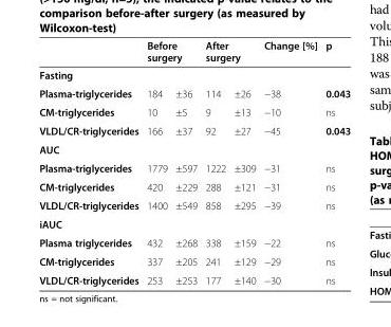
<table><thead><tr><td rowspan="2">Fasting</td><td colspan="2">Before surgery</td><td colspan="2">After surgery</td><td rowspan="2">Change [%]</td><td rowspan="2">p</td></tr><tr><td></td><td></td><td></td><td></td></tr></thead><tbody><tr><td>Plasma-triglycerides</td><td>184</td><td>±36</td><td>114</td><td>±26</td><td>−38</td><td>0.043</td></tr><tr><td>CM-triglycerides</td><td>10</td><td>±5</td><td>9</td><td>±13</td><td>−10</td><td>ns</td></tr><tr><td>VLDL/CR-triglycerides</td><td>166</td><td>±37</td><td>92</td><td>±27</td><td>−45</td><td>0.043</td></tr><tr><td colspan="7">AUC</td></tr><tr><td>Plasma-triglycerides</td><td>1779</td><td>±597</td><td>1222</td><td>±309</td><td>−31</td><td>ns</td></tr><tr><td>CM-triglycerides</td><td>420</td><td>±229</td><td>288</td><td>±121</td><td>−31</td><td>ns</td></tr><tr><td>VLDL/CR-triglycerides</td><td>1400</td><td>±549</td><td>858</td><td>±295</td><td>−39</td><td>ns</td></tr><tr><td colspan="7">iAUC</td></tr><tr><td>Plasma triglycerides</td><td>432</td><td>±268</td><td>338</td><td>±159</td><td>−22</td><td>ns</td></tr><tr><td>CM-triglycerides</td><td>337</td><td>±205</td><td>241</td><td>±129</td><td>−29</td><td>ns</td></tr><tr><td>VLDL/CR-triglycerides</td><td>253</td><td>±253</td><td>177</td><td>±140</td><td>−30</td><td>ns</td></tr></tbody></table>